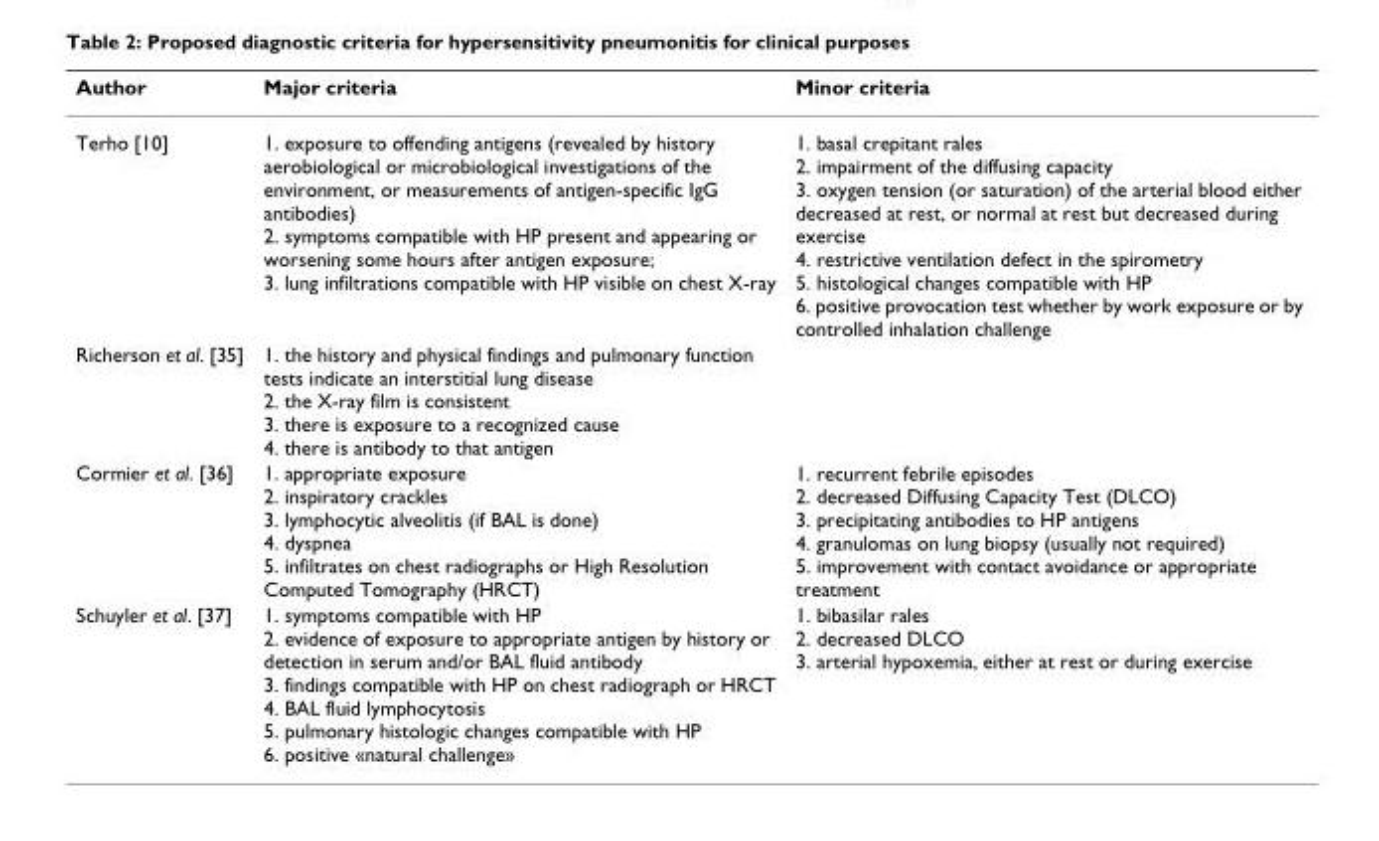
<table><thead><tr><td>Author</td><td>Major criteria</td><td>Minor criteria</td></tr></thead><tbody><tr><td>Terho [10]</td><td>1. exposure to offending antigens (revealed by history aerobiological or microbiological investigations of the environment, or measurements of antigen-specific IgG antibodies) 2. symptoms compatible with HP present and appearing or worsening some hours after antigen exposure; 3. lung infiltrations compatible with HP visible on chest X-ray</td><td>1. basal crepitant rales 2. impairment of the diffusing capacity 3. oxygen tension (or saturation) of the arterial blood either decreased at rest, or normal at rest but decreased during exercise 4. restrictive ventilation defect in the spirometry 5. histological changes compatible with HP 6. positive provocation test whether by work exposure or by controlled inhalation challenge</td></tr><tr><td>Richerson et al. [35]</td><td>1. the history and physical findings and pulmonary function tests indicate an interstitial lung disease 2. the X-ray film is consistent 3. there is exposure to a recognized cause 4. there is antibody to that antigen</td><td></td></tr><tr><td>Cormier et al. [36]</td><td>1. appropriate exposure 2. inspiratory crackles 3. lymphocytic alveolitis (if BAL is done) 4. dyspnea 5. infiltrates on chest radiographs or High Resolution Computed Tomography (HRCT)</td><td>1. recurrent febrile episodes 2. decreased Diffusing Capacity Test (DLCO) 3. precipitating antibodies to HP antigens 4. granulomas on lung biopsy (usually not required) 5. improvement with contact avoidance or appropriate treatment</td></tr><tr><td>Schuyler et al. [37]</td><td>1. symptoms compatible with HP 2. evidence of exposure to appropriate antigen by history or detection in serum and/or BAL fluid antibody 3. findings compatible with HP on chest radiograph or HRCT 4. BAL fluid lymphocytosis 5. pulmonary histologic changes compatible with HP 6. positive «natural challenge»</td><td>1. bibasilar rales 2. decreased DLCO 3. arterial hypoxemia, either at rest or during exercise</td></tr></tbody></table>